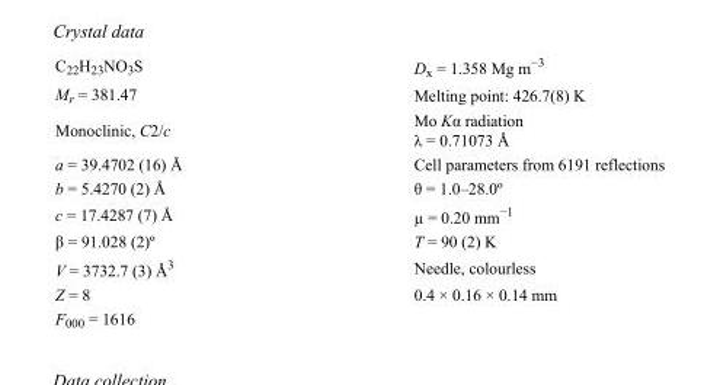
<table><tbody><tr><td>C<sub>22</sub>H<sub>23</sub>NO<sub>3</sub>S</td><td>D<sub>x</sub> = 1.358 Mg m<sup>−3</sup></td></tr><tr><td>M<sub>r</sub> = 381.47</td><td>Melting point: 426.7(8) K</td></tr><tr><td>Monoclinic, C2/c</td><td>Mo Kα radiation λ = 0.71073 Å</td></tr><tr><td>a = 39.4702 (16) Å</td><td>Cell parameters from 6191 reflections</td></tr><tr><td>b = 5.4270 (2) Å</td><td>θ = 1.0–28.0º</td></tr><tr><td>c = 17.4287 (7) Å</td><td>µ = 0.20 mm<sup>−1</sup></td></tr><tr><td>β = 91.028 (2)º</td><td>T = 90 (2) K</td></tr><tr><td>V = 3732.7 (3) Å<sup>3</sup></td><td>Needle, colourless</td></tr><tr><td>Z = 8</td><td>0.4 × 0.16 × 0.14 mm</td></tr><tr><td>F000 = 1616</td><td></td></tr></tbody></table>